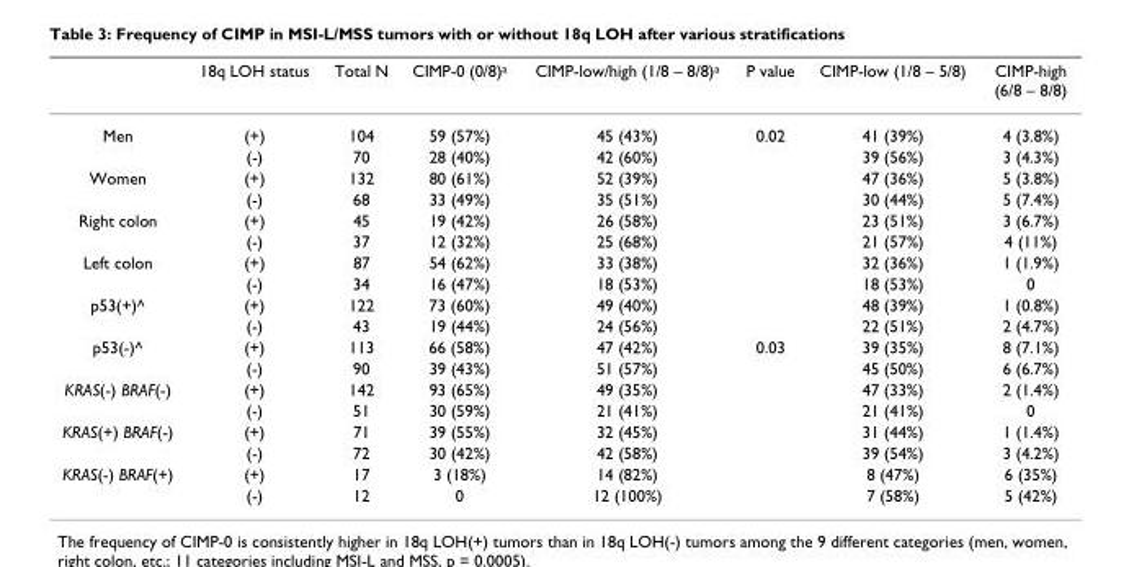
<table><thead><tr><td></td><td>18q LOH status</td><td>Total N</td><td>CIMP-0 (0/8)a</td><td>CIMP-low/high (1/8 – 8/8)a</td><td>P value</td><td>CIMP-low (1/8 – 5/8)</td><td>CIMP-high (6/8 – 8/8)</td></tr></thead><tbody><tr><td rowspan="2">Men</td><td>(+)</td><td>104</td><td>59 (57%)</td><td>45 (43%)</td><td>0.02</td><td>41 (39%)</td><td>4 (3.8%)</td></tr><tr><td>(-)</td><td>70</td><td>28 (40%)</td><td>42 (60%)</td><td></td><td>39 (56%)</td><td>3 (4.3%)</td></tr><tr><td rowspan="2">Women</td><td>(+)</td><td>132</td><td>80 (61%)</td><td>52 (39%)</td><td></td><td>47 (36%)</td><td>5 (3.8%)</td></tr><tr><td>(-)</td><td>68</td><td>33 (49%)</td><td>35 (51%)</td><td></td><td>30 (44%)</td><td>5 (7.4%)</td></tr><tr><td rowspan="2">Right colon</td><td>(+)</td><td>45</td><td>19 (42%)</td><td>26 (58%)</td><td></td><td>23 (51%)</td><td>3 (6.7%)</td></tr><tr><td>(-)</td><td>37</td><td>12 (32%)</td><td>25 (68%)</td><td></td><td>21 (57%)</td><td>4 (11%)</td></tr><tr><td rowspan="2">Left colon</td><td>(+)</td><td>87</td><td>54 (62%)</td><td>33 (38%)</td><td></td><td>32 (36%)</td><td>1 (1.9%)</td></tr><tr><td>(-)</td><td>34</td><td>16 (47%)</td><td>18 (53%)</td><td></td><td>18 (53%)</td><td>0</td></tr><tr><td rowspan="2">p53(+)^</td><td>(+)</td><td>122</td><td>73 (60%)</td><td>49 (40%)</td><td></td><td>48 (39%)</td><td>1 (0.8%)</td></tr><tr><td>(-)</td><td>43</td><td>19 (44%)</td><td>24 (56%)</td><td></td><td>22 (51%)</td><td>2 (4.7%)</td></tr><tr><td rowspan="2">p53(-)^</td><td>(+)</td><td>113</td><td>66 (58%)</td><td>47 (42%)</td><td>0.03</td><td>39 (35%)</td><td>8 (7.1%)</td></tr><tr><td>(-)</td><td>90</td><td>39 (43%)</td><td>51 (57%)</td><td></td><td>45 (50%)</td><td>6 (6.7%)</td></tr><tr><td rowspan="2">KRAS(-) BRAF(-)</td><td>(+)</td><td>142</td><td>93 (65%)</td><td>49 (35%)</td><td></td><td>47 (33%)</td><td>2 (1.4%)</td></tr><tr><td>(-)</td><td>51</td><td>30 (59%)</td><td>21 (41%)</td><td></td><td>21 (41%)</td><td>0</td></tr><tr><td rowspan="2">KRAS(+) BRAF(-)</td><td>(+)</td><td>71</td><td>39 (55%)</td><td>32 (45%)</td><td></td><td>31 (44%)</td><td>1 (1.4%)</td></tr><tr><td>(-)</td><td>72</td><td>30 (42%)</td><td>42 (58%)</td><td></td><td>39 (54%)</td><td>3 (4.2%)</td></tr><tr><td rowspan="2">KRAS(-) BRAF(+)</td><td>(+)</td><td>17</td><td>3 (18%)</td><td>14 (82%)</td><td></td><td>8 (47%)</td><td>6 (35%)</td></tr><tr><td>(-)</td><td>12</td><td>0</td><td>12 (100%)</td><td></td><td>7 (58%)</td><td>5 (42%)</td></tr></tbody></table>